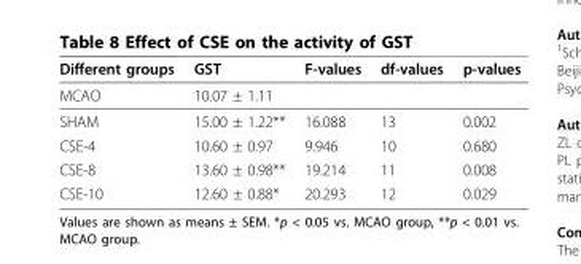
<table><thead><tr><td>Different groups</td><td>GST</td><td>F-values</td><td>df-values</td><td>p-values</td></tr></thead><tbody><tr><td>MCAO</td><td>10.07 ± 1.11</td><td></td><td></td><td></td></tr><tr><td>SHAM</td><td>15.00 ± 1.22**</td><td>16.088</td><td>13</td><td>0.002</td></tr><tr><td>CSE-4</td><td>10.60 ± 0.97</td><td>9.946</td><td>10</td><td>0.680</td></tr><tr><td>CSE-8</td><td>13.60 ± 0.98**</td><td>19.214</td><td>11</td><td>0.008</td></tr><tr><td>CSE-10</td><td>12.60 ± 0.88*</td><td>20.293</td><td>12</td><td>0.029</td></tr></tbody></table>